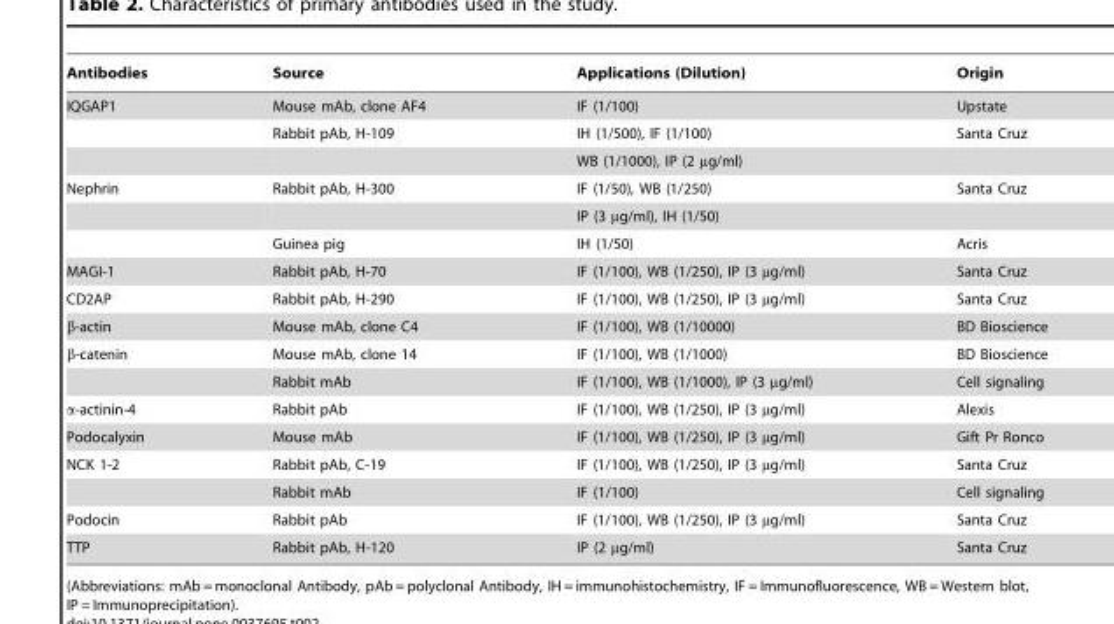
<table><thead><tr><td>Antibodies</td><td>Source</td><td>Applications (Dilution)</td><td>Origin</td></tr></thead><tbody><tr><td rowspan="3">IQGAP1</td><td>Mouse mAb, clone AF4</td><td>IF (1/100)</td><td>Upstate</td></tr><tr><td>Rabbit pAb, H-109</td><td>IH (1/500), IF (1/100)</td><td>Santa Cruz</td></tr><tr><td></td><td>WB (1/1000), IP (2 µg/ml)</td><td></td></tr><tr><td rowspan="3">Nephrin</td><td>Rabbit pAb, H-300</td><td>IF (1/50), WB (1/250)</td><td>Santa Cruz</td></tr><tr><td></td><td>IP (3 µg/ml), IH (1/50)</td><td></td></tr><tr><td>Guinea pig</td><td>IH (1/50)</td><td>Acris</td></tr><tr><td>MAGI-1</td><td>Rabbit pAb, H-70</td><td>IF (1/100), WB (1/250), IP (3 µg/ml)</td><td>Santa Cruz</td></tr><tr><td>CD2AP</td><td>Rabbit pAb, H-290</td><td>IF (1/100), WB (1/250), IP (3 µg/ml)</td><td>Santa Cruz</td></tr><tr><td>β-actin</td><td>Mouse mAb, clone C4</td><td>IF (1/100), WB (1/10000)</td><td>BD Bioscience</td></tr><tr><td rowspan="2">β-catenin</td><td>Mouse mAb, clone 14</td><td>IF (1/100), WB (1/1000)</td><td>BD Bioscience</td></tr><tr><td>Rabbit mAb</td><td>IF (1/100), WB (1/1000), IP (3 µg/ml)</td><td>Cell signaling</td></tr><tr><td>α-actinin-4</td><td>Rabbit pAb</td><td>IF (1/100), WB (1/250), IP (3 µg/ml)</td><td>Alexis</td></tr><tr><td>Podocalyxin</td><td>Mouse mAb</td><td>IF (1/100), WB (1/250), IP (3 µg/ml)</td><td>Gift Pr Ronco</td></tr><tr><td rowspan="2">NCK 1-2</td><td>Rabbit pAb, C-19</td><td>IF (1/100), WB (1/250), IP (3 µg/ml)</td><td>Santa Cruz</td></tr><tr><td>Rabbit mAb</td><td>IF (1/100)</td><td>Cell signaling</td></tr><tr><td>Podocin</td><td>Rabbit pAb</td><td>IF (1/100), WB (1/250), IP (3 µg/ml)</td><td>Santa Cruz</td></tr><tr><td>TTP</td><td>Rabbit pAb, H-120</td><td>IP (2 µg/ml)</td><td>Santa Cruz</td></tr></tbody></table>